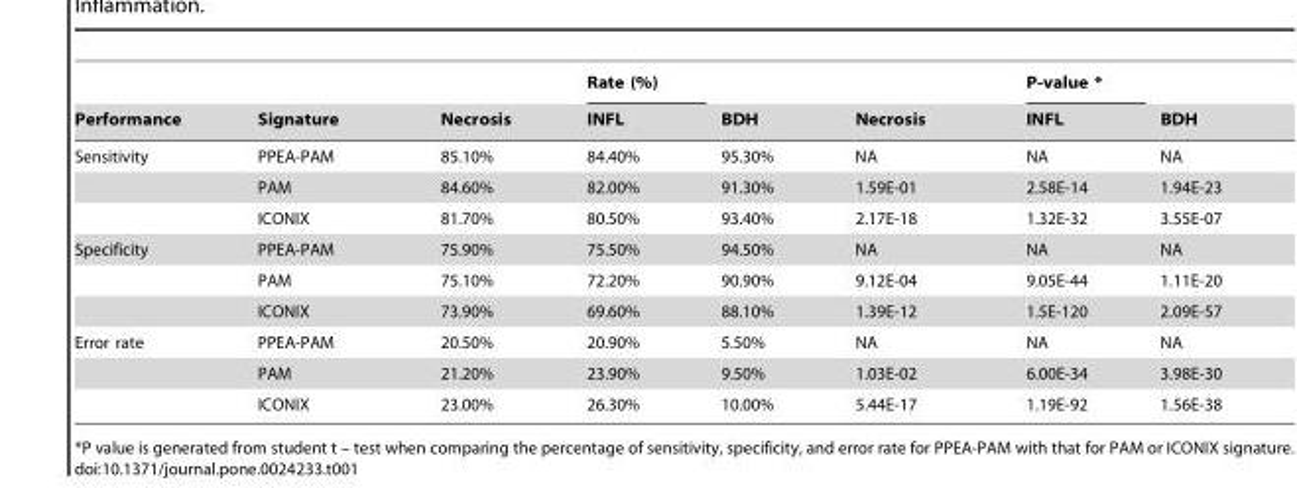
<table><thead><tr><td rowspan="2">Performance</td><td rowspan="2">Signature</td><td rowspan="2">Necrosis</td><td rowspan="2">Rate (%) INFL</td><td rowspan="2">BDH</td><td rowspan="2">Necrosis</td><td rowspan="2">P-value * INFL</td><td rowspan="2">BDH</td></tr><tr></tr></thead><tbody><tr><td rowspan="3">Sensitivity</td><td>PPEA-PAM</td><td>85.10%</td><td>84.40%</td><td>95.30%</td><td>NA</td><td>NA</td><td>NA</td></tr><tr><td>PAM</td><td>84.60%</td><td>82.00%</td><td>91.30%</td><td>1.59E-01</td><td>2.58E-14</td><td>1.94E-23</td></tr><tr><td>ICONIX</td><td>81.70%</td><td>80.50%</td><td>93.40%</td><td>2.17E-18</td><td>1.32E-32</td><td>3.55E-07</td></tr><tr><td rowspan="3">Specificity</td><td>PPEA-PAM</td><td>75.90%</td><td>75.50%</td><td>94.50%</td><td>NA</td><td>NA</td><td>NA</td></tr><tr><td>PAM</td><td>75.10%</td><td>72.20%</td><td>90.90%</td><td>9.12E-04</td><td>9.05E-44</td><td>1.11E-20</td></tr><tr><td>ICONIX</td><td>73.90%</td><td>69.60%</td><td>88.10%</td><td>1.39E-12</td><td>1.5E-120</td><td>2.09E-57</td></tr><tr><td rowspan="3">Error rate</td><td>PPEA-PAM</td><td>20.50%</td><td>20.90%</td><td>5.50%</td><td>NA</td><td>NA</td><td>NA</td></tr><tr><td>PAM</td><td>21.20%</td><td>23.90%</td><td>9.50%</td><td>1.03E-02</td><td>6.00E-34</td><td>3.98E-30</td></tr><tr><td>ICONIX</td><td>23.00%</td><td>26.30%</td><td>10.00%</td><td>5.44E-17</td><td>1.19E-92</td><td>1.56E-38</td></tr></tbody></table>